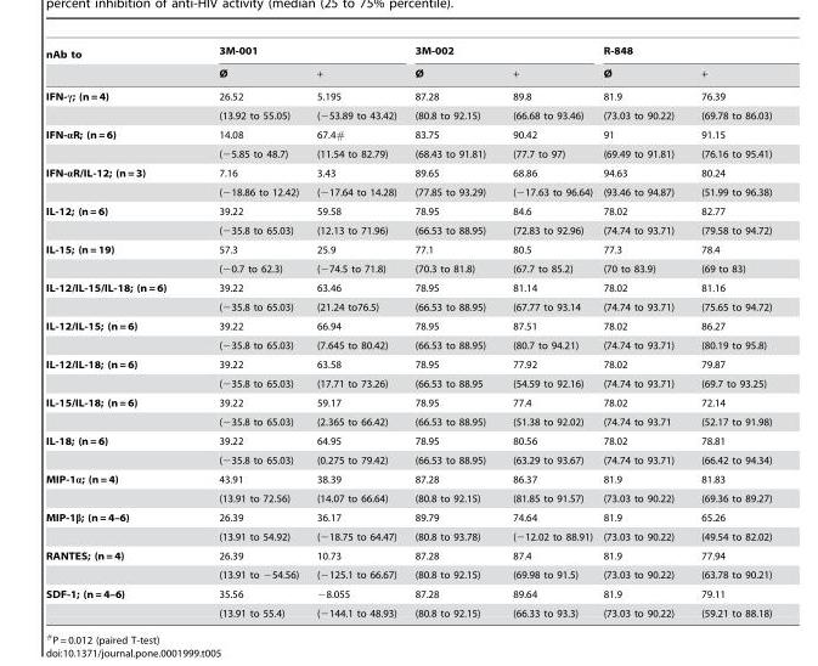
<table><thead><tr><td rowspan="2">nAb to</td><td colspan="2">3M-001</td><td colspan="2">3M-002</td><td colspan="2">R-848</td></tr><tr><td>Ø</td><td>+</td><td>Ø</td><td>+</td><td>Ø</td><td>+</td></tr></thead><tbody><tr><td rowspan="2">IFN-γ; (n = 4)</td><td>26.52</td><td>5.195</td><td>87.28</td><td>89.8</td><td>81.9</td><td>76.39</td></tr><tr><td>(13.92 to 55.05)</td><td>(−53.89 to 43.42)</td><td>(80.8 to 92.15)</td><td>(66.68 to 93.46)</td><td>(73.03 to 90.22)</td><td>(69.78 to 86.03)</td></tr><tr><td rowspan="2">IFN-αR; (n = 6)</td><td>14.08</td><td>67.4#</td><td>83.75</td><td>90.42</td><td>91</td><td>91.15</td></tr><tr><td>(−5.85 to 48.7)</td><td>(11.54 to 82.79)</td><td>(68.43 to 91.81)</td><td>(77.7 to 97)</td><td>(69.49 to 91.81)</td><td>(76.16 to 95.41)</td></tr><tr><td rowspan="2">IFN-αR/IL-12; (n = 3)</td><td>7.16</td><td>3.43</td><td>89.65</td><td>68.86</td><td>94.63</td><td>80.24</td></tr><tr><td>(−18.86 to 12.42)</td><td>(−17.64 to 14.28)</td><td>(77.85 to 93.29)</td><td>(−17.63 to 96.64)</td><td>(93.46 to 94.87)</td><td>(51.99 to 96.38)</td></tr><tr><td rowspan="2">IL-12; (n = 6)</td><td>39.22</td><td>59.58</td><td>78.95</td><td>84.6</td><td>78.02</td><td>82.77</td></tr><tr><td>(−35.8 to 65.03)</td><td>(12.13 to 71.96)</td><td>(66.53 to 88.95)</td><td>(72.83 to 92.96)</td><td>(74.74 to 93.71)</td><td>(79.58 to 94.72)</td></tr><tr><td rowspan="2">IL-15; (n = 19)</td><td>57.3</td><td>25.9</td><td>77.1</td><td>80.5</td><td>77.3</td><td>78.4</td></tr><tr><td>(−0.7 to 62.3)</td><td>(−74.5 to 71.8)</td><td>(70.3 to 81.8)</td><td>(67.7 to 85.2)</td><td>(70 to 83.9)</td><td>(69 to 83)</td></tr><tr><td rowspan="2">IL-12/IL-15/IL-18; (n = 6)</td><td>39.22</td><td>63.46</td><td>78.95</td><td>81.14</td><td>78.02</td><td>81.16</td></tr><tr><td>(−35.8 to 65.03)</td><td>(21.24 to76.5)</td><td>(66.53 to 88.95)</td><td>(67.77 to 93.14</td><td>(74.74 to 93.71)</td><td>(75.65 to 94.72)</td></tr><tr><td rowspan="2">IL-12/IL-15; (n = 6)</td><td>39.22</td><td>66.94</td><td>78.95</td><td>87.51</td><td>78.02</td><td>86.27</td></tr><tr><td>(−35.8 to 65.03)</td><td>(7.645 to 80.42)</td><td>(66.53 to 88.95)</td><td>(80.7 to 94.21)</td><td>(74.74 to 93.71)</td><td>(80.19 to 95.8)</td></tr><tr><td rowspan="2">IL-12/IL-18; (n = 6)</td><td>39.22</td><td>63.58</td><td>78.95</td><td>77.92</td><td>78.02</td><td>79.87</td></tr><tr><td>(−35.8 to 65.03)</td><td>(17.71 to 73.26)</td><td>(66.53 to 88.95</td><td>(54.59 to 92.16)</td><td>(74.74 to 93.71)</td><td>(69.7 to 93.25)</td></tr><tr><td rowspan="2">IL-15/IL-18; (n = 6)</td><td>39.22</td><td>59.17</td><td>78.95</td><td>77.4</td><td>78.02</td><td>72.14</td></tr><tr><td>(−35.8 to 65.03)</td><td>(2.365 to 66.42)</td><td>(66.53 to 88.95)</td><td>(51.38 to 92.02)</td><td>(74.74 to 93.71</td><td>(52.17 to 91.98)</td></tr><tr><td rowspan="2">IL-18; (n = 6)</td><td>39.22</td><td>64.95</td><td>78.95</td><td>80.56</td><td>78.02</td><td>78.81</td></tr><tr><td>(−35.8 to 65.03)</td><td>(0.275 to 79.42)</td><td>(66.53 to 88.95)</td><td>(63.29 to 93.67)</td><td>(74.74 to 93.71)</td><td>(66.42 to 94.34)</td></tr><tr><td rowspan="2">MIP-1α; (n = 4)</td><td>43.91</td><td>38.39</td><td>87.28</td><td>86.37</td><td>81.9</td><td>81.83</td></tr><tr><td>(13.91 to 72.56)</td><td>(14.07 to 66.64)</td><td>(80.8 to 92.15)</td><td>(81.85 to 91.57)</td><td>(73.03 to 90.22)</td><td>(69.36 to 89.27)</td></tr><tr><td rowspan="2">MIP-1β; (n = 4–6)</td><td>26.39</td><td>36.17</td><td>89.79</td><td>74.64</td><td>81.9</td><td>65.26</td></tr><tr><td>(13.91 to 54.92)</td><td>(−18.75 to 64.47)</td><td>(80.8 to 93.78)</td><td>(−12.02 to 88.91)</td><td>(73.03 to 90.22)</td><td>(49.54 to 82.02)</td></tr><tr><td rowspan="2">RANTES; (n = 4)</td><td>26.39</td><td>10.73</td><td>87.28</td><td>87.4</td><td>81.9</td><td>77.94</td></tr><tr><td>(13.91 to −54.56)</td><td>(−125.1 to 66.67)</td><td>(80.8 to 92.15)</td><td>(69.98 to 91.5)</td><td>(73.03 to 90.22)</td><td>(63.78 to 90.21)</td></tr><tr><td rowspan="2">SDF-1; (n = 4–6)</td><td>35.56</td><td>−8.055</td><td>87.28</td><td>89.64</td><td>81.9</td><td>79.11</td></tr><tr><td>(13.91 to 55.4)</td><td>(−144.1 to 48.93)</td><td>(80.8 to 92.15)</td><td>(66.33 to 93.3)</td><td>(73.03 to 90.22)</td><td>(59.21 to 88.18)</td></tr></tbody></table>